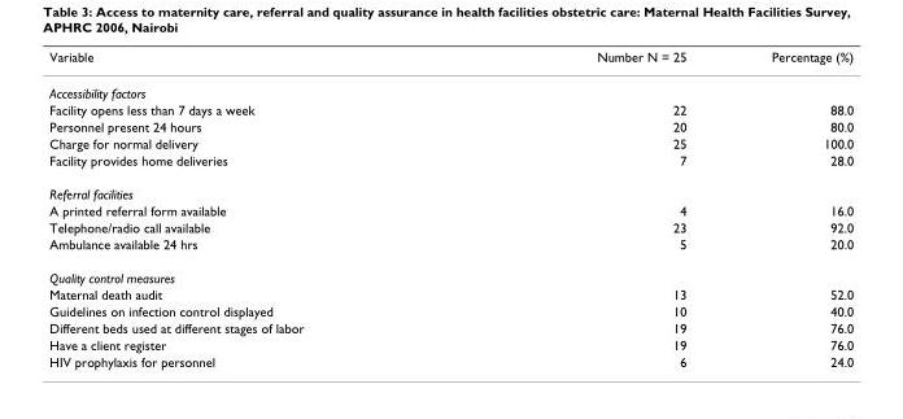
<table><thead><tr><td>Variable</td><td>Number N = 25</td><td>Percentage (%)</td></tr></thead><tbody><tr><td colspan="3">Accessibility factors</td></tr><tr><td>Facility opens less than 7 days a week</td><td>22</td><td>88.0</td></tr><tr><td>Personnel present 24 hours</td><td>20</td><td>80.0</td></tr><tr><td>Charge for normal delivery</td><td>25</td><td>100.0</td></tr><tr><td>Facility provides home deliveries</td><td>7</td><td>28.0</td></tr><tr><td colspan="3">Referral facilities</td></tr><tr><td>A printed referral form available</td><td>4</td><td>16.0</td></tr><tr><td>Telephone/radio call available</td><td>23</td><td>92.0</td></tr><tr><td>Ambulance available 24 hrs</td><td>5</td><td>20.0</td></tr><tr><td colspan="3">Quality control measures</td></tr><tr><td>Maternal death audit</td><td>13</td><td>52.0</td></tr><tr><td>Guidelines on infection control displayed</td><td>10</td><td>40.0</td></tr><tr><td>Different beds used at different stages of labor</td><td>19</td><td>76.0</td></tr><tr><td>Have a client register</td><td>19</td><td>76.0</td></tr><tr><td>HIV prophylaxis for personnel</td><td>6</td><td>24.0</td></tr></tbody></table>